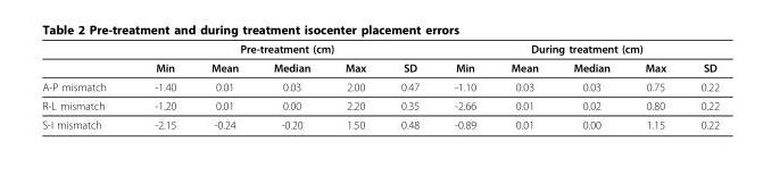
<table><thead><tr><td rowspan="2"></td><td colspan="5">Pre-treatment (cm)</td><td colspan="5">During treatment (cm)</td></tr><tr><td>Min</td><td>Mean</td><td>Median</td><td>Max</td><td>SD</td><td>Min</td><td>Mean</td><td>Median</td><td>Max</td><td>SD</td></tr></thead><tbody><tr><td>A-P mismatch</td><td>-1.40</td><td>0.01</td><td>0.03</td><td>2.00</td><td>0.47</td><td>-1.10</td><td>0.03</td><td>0.03</td><td>0.75</td><td>0.22</td></tr><tr><td>R-L mismatch</td><td>-1.20</td><td>0.01</td><td>0.00</td><td>2.20</td><td>0.35</td><td>-2.66</td><td>0.01</td><td>0.02</td><td>0.80</td><td>0.22</td></tr><tr><td>S-I mismatch</td><td>-2.15</td><td>-0.24</td><td>-0.20</td><td>1.50</td><td>0.48</td><td>-0.89</td><td>0.01</td><td>0.00</td><td>1.15</td><td>0.22</td></tr></tbody></table>